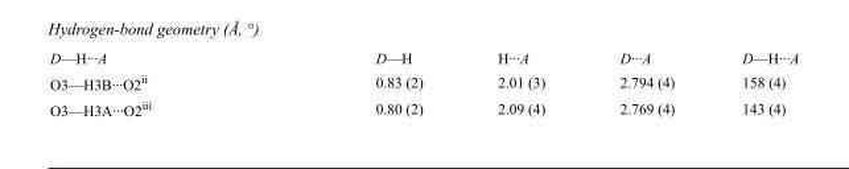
<table><tbody><tr><td>D—H···A</td><td>D—H</td><td>H···A</td><td>D···A</td><td>D—H···A</td></tr><tr><td>O3—H3B···O2<sup>ii</sup></td><td>0.83 (2)</td><td>2.01 (3)</td><td>2.794 (4)</td><td>158 (4)</td></tr><tr><td>O3—H3A···O2<sup>iii</sup></td><td>0.80 (2)</td><td>2.09 (4)</td><td>2.769 (4)</td><td>143 (4)</td></tr></tbody></table>